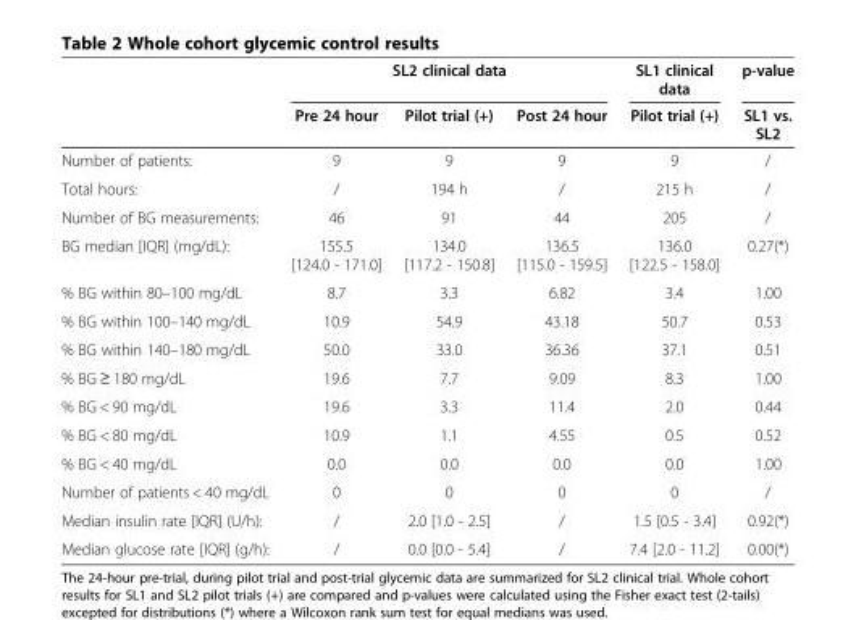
<table><thead><tr><td rowspan="2"></td><td colspan="3">SL2 clinical data</td><td rowspan="2">SL1 clinical data Pilot trial (+)</td><td rowspan="2">p-value SL1 vs. SL2</td></tr><tr><td>Pre 24 hour</td><td>Pilot trial (+)</td><td>Post 24 hour</td></tr></thead><tbody><tr><td>Number of patients:</td><td>9</td><td>9</td><td>9</td><td>9</td><td>/</td></tr><tr><td>Total hours:</td><td>/</td><td>194 h</td><td>/</td><td>215 h</td><td>/</td></tr><tr><td>Number of BG measurements:</td><td>46</td><td>91</td><td>44</td><td>205</td><td>/</td></tr><tr><td>BG median [IQR] (mg/dL):</td><td>155.5 [124.0 - 171.0]</td><td>134.0 [117.2 - 150.8]</td><td>136.5 [115.0 - 159.5]</td><td>136.0 [122.5 - 158.0]</td><td>0.27(*)</td></tr><tr><td>% BG within 80–100 mg/dL</td><td>8.7</td><td>3.3</td><td>6.82</td><td>3.4</td><td>1.00</td></tr><tr><td>% BG within 100–140 mg/dL</td><td>10.9</td><td>54.9</td><td>43.18</td><td>50.7</td><td>0.53</td></tr><tr><td>% BG within 140–180 mg/dL</td><td>50.0</td><td>33.0</td><td>36.36</td><td>37.1</td><td>0.51</td></tr><tr><td>% BG ≥ 180 mg/dL</td><td>19.6</td><td>7.7</td><td>9.09</td><td>8.3</td><td>1.00</td></tr><tr><td>% BG &lt; 90 mg/dL</td><td>19.6</td><td>3.3</td><td>11.4</td><td>2.0</td><td>0.44</td></tr><tr><td>% BG &lt; 80 mg/dL</td><td>10.9</td><td>1.1</td><td>4.55</td><td>0.5</td><td>0.52</td></tr><tr><td>% BG &lt; 40 mg/dL</td><td>0.0</td><td>0.0</td><td>0.0</td><td>0.0</td><td>1.00</td></tr><tr><td>Number of patients &lt; 40 mg/dL</td><td>0</td><td>0</td><td>0</td><td>0</td><td>/</td></tr><tr><td>Median insulin rate [IQR] (U/h):</td><td>/</td><td>2.0 [1.0 - 2.5]</td><td>/</td><td>1.5 [0.5 - 3.4]</td><td>0.92(*)</td></tr><tr><td>Median glucose rate [IQR] (g/h):</td><td>/</td><td>0.0 [0.0 - 5.4]</td><td>/</td><td>7.4 [2.0 - 11.2]</td><td>0.00(*)</td></tr></tbody></table>